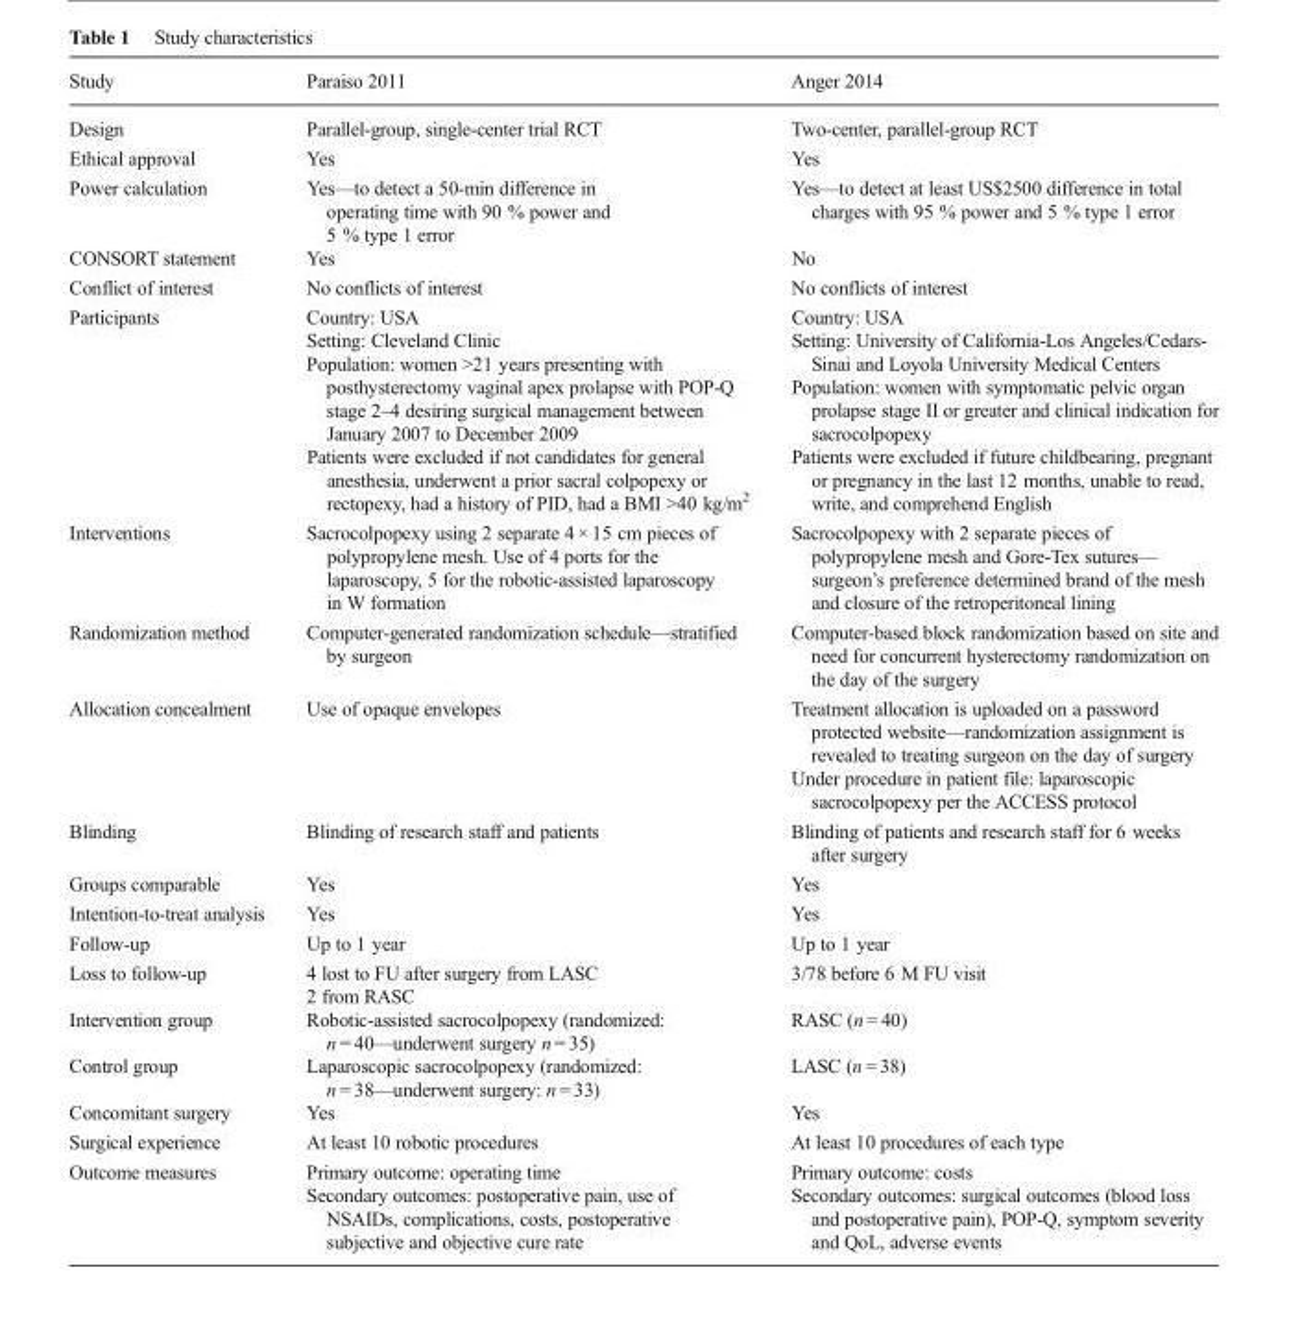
<table><thead><tr><td>Study</td><td>Paraiso 2011</td><td>Anger 2014</td></tr></thead><tbody><tr><td>Design</td><td>Parallel-group, single-center trial RCT</td><td>Two-center, parallel-group RCT</td></tr><tr><td>Ethical approval</td><td>Yes</td><td>Yes</td></tr><tr><td>Power calculation</td><td>Yes—to detect a 50-min difference in operating time with 90 % power and 5 % type 1 error</td><td>Yes—to detect at least US$2500 difference in total charges with 95 % power and 5 % type 1 error</td></tr><tr><td>CONSORT statement</td><td>Yes</td><td>No</td></tr><tr><td>Conflict of interest</td><td>No conflicts of interest</td><td>No conflicts of interest</td></tr><tr><td>Participants</td><td>Country: USA Setting: Cleveland Clinic Population: women &gt;21 years presenting with posthysterectomy vaginal apex prolapse with POP-Q stage 2–4 desiring surgical management between January 2007 to December 2009 Patients were excluded if not candidates for general anesthesia, underwent a prior sacral colpopexy or rectopexy, had a history of PID, had a BMI &gt;40 kg/m<sup>2</sup></td><td>Country: USA Setting: University of California-Los Angeles/Cedars- Sinai and Loyola University Medical Centers Population: women with symptomatic pelvic organ prolapse stage II or greater and clinical indication for sacrocolpopexy Patients were excluded if future childbearing, pregnant or pregnancy in the last 12 months, unable to read, write, and comprehend English</td></tr><tr><td>Interventions</td><td>Sacrocolpopexy using 2 separate 4 × 15 cm pieces of polypropylene mesh. Use of 4 ports for the laparoscopy, 5 for the robotic-assisted laparoscopy in W formation</td><td>Sacrocolpopexy with 2 separate pieces of polypropylene mesh and Gore-Tex sutures— surgeon’s preference determined brand of the mesh and closure of the retroperitoneal lining</td></tr><tr><td>Randomization method</td><td>Computer-generated randomization schedule—stratified by surgeon</td><td>Computer-based block randomization based on site and need for concurrent hysterectomy randomization on the day of the surgery</td></tr><tr><td>Allocation concealment</td><td>Use of opaque envelopes</td><td>Treatment allocation is uploaded on a password protected website—randomization assignment is revealed to treating surgeon on the day of surgery Under procedure in patient file: laparoscopic sacrocolpopexy per the ACCESS protocol</td></tr><tr><td>Blinding</td><td>Blinding of research staff and patients</td><td>Blinding of patients and research staff for 6 weeks after surgery</td></tr><tr><td>Groups comparable</td><td>Yes</td><td>Yes</td></tr><tr><td>Intention-to-treat analysis</td><td>Yes</td><td>Yes</td></tr><tr><td>Follow-up</td><td>Up to 1 year</td><td>Up to 1 year</td></tr><tr><td>Loss to follow-up</td><td>4 lost to FU after surgery from LASC 2 from RASC</td><td>3/78 before 6 M FU visit</td></tr><tr><td>Intervention group</td><td>Robotic-assisted sacrocolpopexy (randomized: n = 40—underwent surgery n = 35)</td><td>RASC (n = 40)</td></tr><tr><td>Control group</td><td>Laparoscopic sacrocolpopexy (randomized: n = 38—underwent surgery: n = 33)</td><td>LASC (n = 38)</td></tr><tr><td>Concomitant surgery</td><td>Yes</td><td>Yes</td></tr><tr><td>Surgical experience</td><td>At least 10 robotic procedures</td><td>At least 10 procedures of each type</td></tr><tr><td>Outcome measures</td><td>Primary outcome: operating time Secondary outcomes: postoperative pain, use of NSAIDs, complications, costs, postoperative subjective and objective cure rate</td><td>Primary outcome: costs Secondary outcomes: surgical outcomes (blood loss and postoperative pain), POP-Q, symptom severity and QoL, adverse events</td></tr></tbody></table>